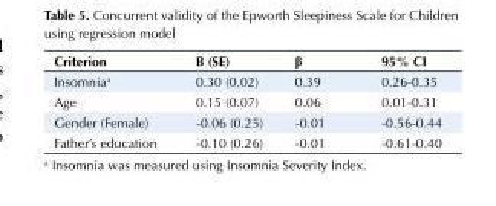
<table><tbody><tr><td>Criterion</td><td>B (SE)</td><td>β</td><td>95% CI</td></tr><tr><td>Insomnia<sup>a</sup></td><td>0.30 (0.02)</td><td>0.39</td><td>0.26-0.35</td></tr><tr><td>Age</td><td>0.15 (0.07)</td><td>0.06</td><td>0.01-0.31</td></tr><tr><td>Gender (Female)</td><td>-0.06 (0.25)</td><td>-0.01</td><td>-0.56-0.44</td></tr><tr><td>Father’s education</td><td>-0.10 (0.26)</td><td>-0.01</td><td>-0.61-0.40</td></tr></tbody></table>